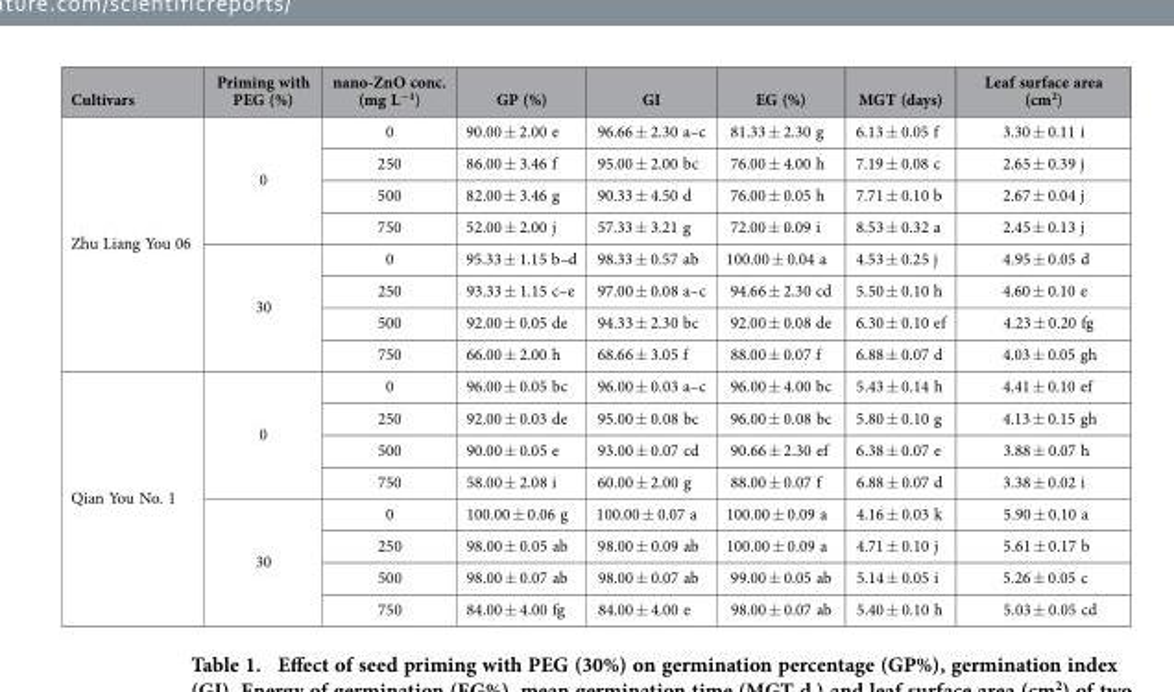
<table><thead><tr><td>Cultivars</td><td>Priming with PEG (%)</td><td>nano-ZnO conc. (mg L<sup>−1</sup>)</td><td>GP (%)</td><td>GI</td><td>EG (%)</td><td>MGT (days)</td><td>Leaf surface area (cm<sup>2</sup>)</td></tr></thead><tbody><tr><td rowspan="8">Zhu Liang You 06</td><td rowspan="4">0</td><td>0</td><td>90.00 ± 2.00 e</td><td>96.66 ± 2.30 a–c</td><td>81.33 ± 2.30 g</td><td>6.13 ± 0.05 f</td><td>3.30 ± 0.11 i</td></tr><tr><td>250</td><td>86.00 ± 3.46 f</td><td>95.00 ± 2.00 bc</td><td>76.00 ± 4.00 h</td><td>7.19 ± 0.08 c</td><td>2.65 ± 0.39 j</td></tr><tr><td>500</td><td>82.00 ± 3.46 g</td><td>90.33 ± 4.50 d</td><td>76.00 ± 0.05 h</td><td>7.71 ± 0.10 b</td><td>2.67 ± 0.04 j</td></tr><tr><td>750</td><td>52.00 ± 2.00 j</td><td>57.33 ± 3.21 g</td><td>72.00 ± 0.09 i</td><td>8.53 ± 0.32 a</td><td>2.45 ± 0.13 j</td></tr><tr><td rowspan="4">30</td><td>0</td><td>95.33 ± 1.15 b–d</td><td>98.33 ± 0.57 ab</td><td>100.00 ± 0.04 a</td><td>4.53 ± 0.25 j</td><td>4.95 ± 0.05 d</td></tr><tr><td>250</td><td>93.33 ± 1.15 c–e</td><td>97.00 ± 0.08 a–c</td><td>94.66 ± 2.30 cd</td><td>5.50 ± 0.10 h</td><td>4.60 ± 0.10 e</td></tr><tr><td>500</td><td>92.00 ± 0.05 de</td><td>94.33 ± 2.30 bc</td><td>92.00 ± 0.08 de</td><td>6.30 ± 0.10 ef</td><td>4.23 ± 0.20 fg</td></tr><tr><td>750</td><td>66.00 ± 2.00 h</td><td>68.66 ± 3.05 f</td><td>88.00 ± 0.07 f</td><td>6.88 ± 0.07 d</td><td>4.03 ± 0.05 gh</td></tr><tr><td rowspan="8">Qian You No. 1</td><td rowspan="4">0</td><td>0</td><td>96.00 ± 0.05 bc</td><td>96.00 ± 0.03 a–c</td><td>96.00 ± 4.00 bc</td><td>5.43 ± 0.14 h</td><td>4.41 ± 0.10 ef</td></tr><tr><td>250</td><td>92.00 ± 0.03 de</td><td>95.00 ± 0.08 bc</td><td>96.00 ± 0.08 bc</td><td>5.80 ± 0.10 g</td><td>4.13 ± 0.15 gh</td></tr><tr><td>500</td><td>90.00 ± 0.05 e</td><td>93.00 ± 0.07 cd</td><td>90.66 ± 2.30 ef</td><td>6.38 ± 0.07 e</td><td>3.88 ± 0.07 h</td></tr><tr><td>750</td><td>58.00 ± 2.08 i</td><td>60.00 ± 2.00 g</td><td>88.00 ± 0.07 f</td><td>6.88 ± 0.07 d</td><td>3.38 ± 0.02 i</td></tr><tr><td rowspan="4">30</td><td>0</td><td>100.00 ± 0.06 g</td><td>100.00 ± 0.07 a</td><td>100.00 ± 0.09 a</td><td>4.16 ± 0.03 k</td><td>5.90 ± 0.10 a</td></tr><tr><td>250</td><td>98.00 ± 0.05 ab</td><td>98.00 ± 0.09 ab</td><td>100.00 ± 0.09 a</td><td>4.71 ± 0.10 j</td><td>5.61 ± 0.17 b</td></tr><tr><td>500</td><td>98.00 ± 0.07 ab</td><td>98.00 ± 0.07 ab</td><td>99.00 ± 0.05 ab</td><td>5.14 ± 0.05 i</td><td>5.26 ± 0.05 c</td></tr><tr><td>750</td><td>84.00 ± 4.00 fg</td><td>84.00 ± 4.00 e</td><td>98.00 ± 0.07 ab</td><td>5.40 ± 0.10 h</td><td>5.03 ± 0.05 cd</td></tr></tbody></table>